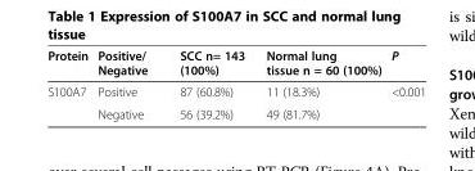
<table><thead><tr><td>Protein</td><td>Positive/ Negative</td><td>SCC n= 143 (100%)</td><td>Normal lung tissue n = 60 (100%)</td><td>P</td></tr></thead><tbody><tr><td rowspan="2">S100A7</td><td>Positive</td><td>87 (60.8%)</td><td>11 (18.3%)</td><td>&lt;0.001</td></tr><tr><td>Negative</td><td>56 (39.2%)</td><td>49 (81.7%)</td><td></td></tr></tbody></table>